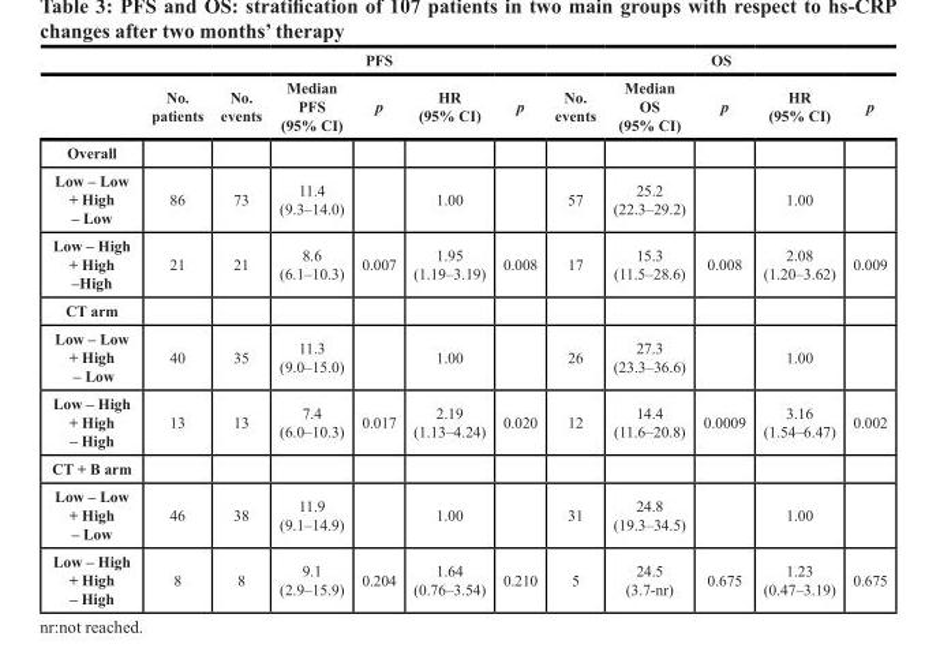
<table><thead><tr><td rowspan="2"></td><td rowspan="2">No. patients</td><td colspan="5">PFS</td><td colspan="5">OS</td></tr><tr><td>No. events</td><td>Median PFS (95% CI)</td><td>p</td><td>HR (95% CI)</td><td>p</td><td>No. events</td><td>Median OS (95% CI)</td><td>p</td><td>HR (95% CI)</td><td>p</td></tr></thead><tbody><tr><td colspan="12">Overall</td></tr><tr><td>Low – Low + High – Low</td><td>86</td><td>73</td><td>11.4 (9.3–14.0)</td><td></td><td>1.00</td><td></td><td>57</td><td>25.2 (22.3–29.2)</td><td></td><td>1.00</td><td></td></tr><tr><td>Low – High + High –High</td><td>21</td><td>21</td><td>8.6 (6.1–10.3)</td><td>0.007</td><td>1.95 (1.19–3.19)</td><td>0.008</td><td>17</td><td>15.3 (11.5–28.6)</td><td>0.008</td><td>2.08 (1.20–3.62)</td><td>0.009</td></tr><tr><td colspan="12">CT arm</td></tr><tr><td>Low – Low + High – Low</td><td>40</td><td>35</td><td>11.3 (9.0–15.0)</td><td></td><td>1.00</td><td></td><td>26</td><td>27.3 (23.3–36.6)</td><td></td><td>1.00</td><td></td></tr><tr><td>Low – High + High – High</td><td>13</td><td>13</td><td>7.4 (6.0–10.3)</td><td>0.017</td><td>2.19 (1.13–4.24)</td><td>0.020</td><td>12</td><td>14.4 (11.6–20.8)</td><td>0.0009</td><td>3.16 (1.54–6.47)</td><td>0.002</td></tr><tr><td colspan="12">CT + B arm</td></tr><tr><td>Low – Low + High – Low</td><td>46</td><td>38</td><td>11.9 (9.1–14.9)</td><td></td><td>1.00</td><td></td><td>31</td><td>24.8 (19.3–34.5)</td><td></td><td>1.00</td><td></td></tr><tr><td>Low – High + High – High</td><td>8</td><td>8</td><td>9.1 (2.9–15.9)</td><td>0.204</td><td>1.64 (0.76–3.54)</td><td>0.210</td><td>5</td><td>24.5 (3.7-nr)</td><td>0.675</td><td>1.23 (0.47–3.19)</td><td>0.675</td></tr></tbody></table>